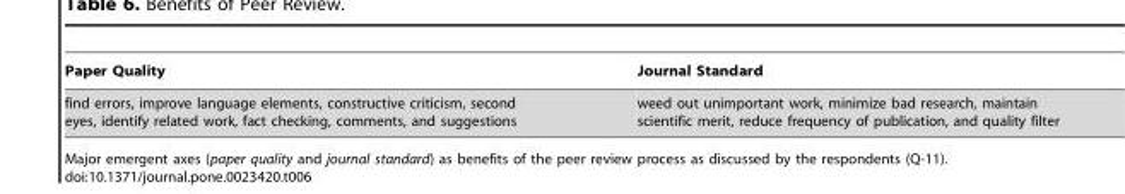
<table><thead><tr><td>Paper Quality</td><td>Journal Standard</td></tr></thead><tbody><tr><td>find errors, improve language elements, constructive criticism, second eyes, identify related work, fact checking, comments, and suggestions</td><td>weed out unimportant work, minimize bad research, maintain scientific merit, reduce frequency of publication, and quality filter</td></tr></tbody></table>